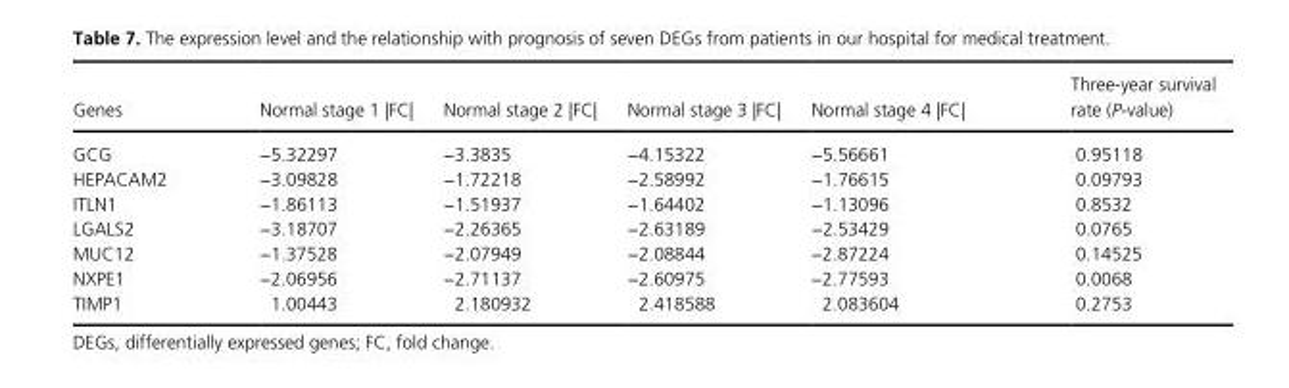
<table><thead><tr><td>Genes</td><td>Normal stage 1 |FC|</td><td>Normal stage 2 |FC|</td><td>Normal stage 3 |FC|</td><td>Normal stage 4 |FC|</td><td>Three- year survival rate (P- value)</td></tr></thead><tbody><tr><td>GCG</td><td>−5.32297</td><td>−3.3835</td><td>−4.15322</td><td>−5.56661</td><td>0.95118</td></tr><tr><td>HEPACAM2</td><td>−3.09828</td><td>−1.72218</td><td>−2.58992</td><td>−1.76615</td><td>0.09793</td></tr><tr><td>ITLN1</td><td>−1.86113</td><td>−1.51937</td><td>−1.64402</td><td>−1.13096</td><td>0.8532</td></tr><tr><td>LGALS2</td><td>−3.18707</td><td>−2.26365</td><td>−2.63189</td><td>−2.53429</td><td>0.0765</td></tr><tr><td>MUC12</td><td>−1.37528</td><td>−2.07949</td><td>−2.08844</td><td>−2.87224</td><td>0.14525</td></tr><tr><td>NXPE1</td><td>−2.06956</td><td>−2.71137</td><td>−2.60975</td><td>−2.77593</td><td>0.0068</td></tr><tr><td>TIMP1</td><td>1.00443</td><td>2.180932</td><td>2.418588</td><td>2.083604</td><td>0.2753</td></tr></tbody></table>